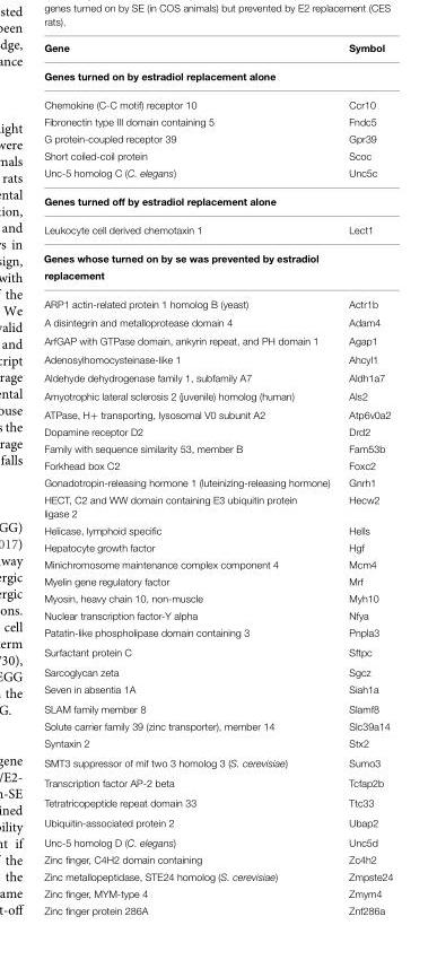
<table><thead><tr><td>Gene</td><td>Symbol</td></tr></thead><tbody><tr><td colspan="2">Genes turned on by estradiol replacement alone</td></tr><tr><td>Chemokine (C-C motif) receptor 10</td><td>Ccr10</td></tr><tr><td>Fibronectin type III domain containing 5</td><td>Fndc5</td></tr><tr><td>G protein-coupled receptor 39</td><td>Gpr39</td></tr><tr><td>Short coiled-coil protein</td><td>Scoc</td></tr><tr><td>Unc-5 homolog C (C. elegans)</td><td>Unc5c</td></tr><tr><td colspan="2">Genes turned off by estradiol replacement alone</td></tr><tr><td>Leukocyte cell derived chemotaxin 1</td><td>Lect1</td></tr><tr><td colspan="2">Genes whose turned on by se was prevented by estradiol replacement</td></tr><tr><td>ARP1 actin-related protein 1 homolog B (yeast)</td><td>Actr1b</td></tr><tr><td>A disintegrin and metalloprotease domain 4</td><td>Adam4</td></tr><tr><td>ArfGAP with GTPase domain, ankyrin repeat, and PH domain 1</td><td>Agap1</td></tr><tr><td>Adenosylhomocysteinase-like 1</td><td>Ahcyl1</td></tr><tr><td>Aldehyde dehydrogenase family 1, subfamily A7</td><td>Aldh1a7</td></tr><tr><td>Amyotrophic lateral sclerosis 2 (juvenile) homolog (human)</td><td>Als2</td></tr><tr><td>ATPase, H+ transporting, lysosomal V0 subunit A2</td><td>Atp6v0a2</td></tr><tr><td>Dopamine receptor D2</td><td>Drd2</td></tr><tr><td>Family with sequence similarity 53, member B</td><td>Fam53b</td></tr><tr><td>Forkhead box C2</td><td>Foxc2</td></tr><tr><td>Gonadotropin-releasing hormone 1 (luteinizing-releasing hormone)</td><td>Gnrh1</td></tr><tr><td>HECT, C2 and WW domain containing E3 ubiquitin protein ligase 2</td><td>Hecw2</td></tr><tr><td>Helicase, lymphoid specific</td><td>Hells</td></tr><tr><td>Hepatocyte growth factor</td><td>Hgf</td></tr><tr><td>Minichromosome maintenance complex component 4</td><td>Mcm4</td></tr><tr><td>Myelin gene regulatory factor</td><td>Mrf</td></tr><tr><td>Myosin, heavy chain 10, non-muscle</td><td>Myh10</td></tr><tr><td>Nuclear transcription factor-Y alpha</td><td>Nfya</td></tr><tr><td>Patatin-like phospholipase domain containing 3</td><td>Pnpla3</td></tr><tr><td>Surfactant protein C</td><td>Sftpc</td></tr><tr><td>Sarcoglycan zeta</td><td>Sgcz</td></tr><tr><td>Seven in absentia 1A</td><td>Siah1a</td></tr><tr><td>SLAM family member 8</td><td>Slamf8</td></tr><tr><td>Solute carrier family 39 (zinc transporter), member 14</td><td>Slc39a14</td></tr><tr><td>Syntaxin 2</td><td>Stx2</td></tr><tr><td>SMT3 suppressor of mif two 3 homolog 3 (S. cerevisiae)</td><td>Sumo3</td></tr><tr><td>Transcription factor AP-2 beta</td><td>Tcfap2b</td></tr><tr><td>Tetratricopeptide repeat domain 33</td><td>Ttc33</td></tr><tr><td>Ubiquitin-associated protein 2</td><td>Ubap2</td></tr><tr><td>Unc-5 homolog D (C. elegans)</td><td>Unc5d</td></tr><tr><td>Zinc finger, C4H2 domain containing</td><td>Zc4h2</td></tr><tr><td>Zinc metallopeptidase, STE24 homolog (S. cerevisiae)</td><td>Zmpste24</td></tr><tr><td>Zinc finger, MYM-type 4</td><td>Zmym4</td></tr><tr><td>Zinc finger protein 286A</td><td>Znf286a</td></tr></tbody></table>